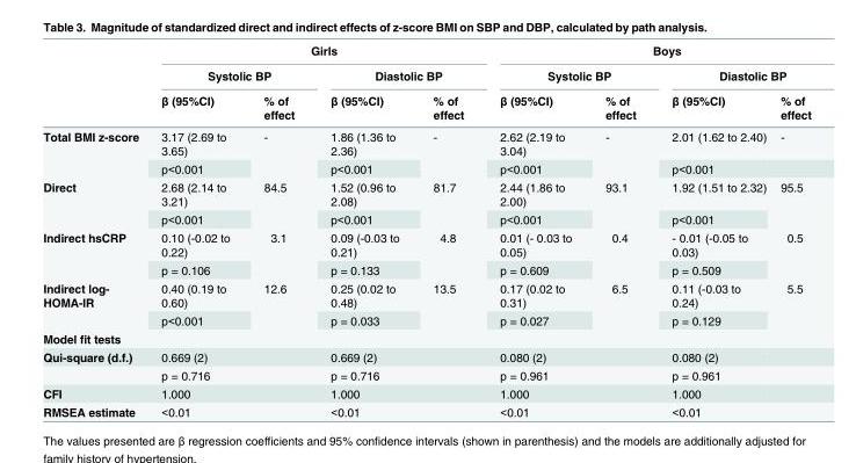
<table><thead><tr><td rowspan="3"></td><td colspan="4">Girls</td><td colspan="4">Boys</td></tr><tr><td colspan="2">Systolic BP</td><td colspan="2">Diastolic BP</td><td colspan="2">Systolic BP</td><td colspan="2">Diastolic BP</td></tr><tr><td>β (95%CI)</td><td>% of effect</td><td>β (95%CI)</td><td>% of effect</td><td>β (95%CI)</td><td>% of effect</td><td>β (95%CI)</td><td>% of effect</td></tr></thead><tbody><tr><td rowspan="2">Total BMI z-score</td><td>3.17 (2.69 to 3.65)</td><td rowspan="2">-</td><td>1.86 (1.36 to 2.36)</td><td rowspan="2">-</td><td>2.62 (2.19 to 3.04)</td><td rowspan="2">-</td><td>2.01 (1.62 to 2.40)</td><td>-</td></tr><tr><td>p&lt;0.001</td><td>p&lt;0.001</td><td>p&lt;0.001</td><td>p&lt;0.001</td><td></td></tr><tr><td rowspan="2">Direct</td><td>2.68 (2.14 to 3.21)</td><td rowspan="2">84.5</td><td>1.52 (0.96 to 2.08)</td><td rowspan="2">81.7</td><td>2.44 (1.86 to 2.00)</td><td rowspan="2">93.1</td><td>1.92 (1.51 to 2.32)</td><td rowspan="2">95.5</td></tr><tr><td>p&lt;0.001</td><td>p&lt;0.001</td><td>p&lt;0.001</td><td>p&lt;0.001</td></tr><tr><td rowspan="2">Indirect hsCRP</td><td>0.10 (-0.02 to 0.22)</td><td rowspan="2">3.1</td><td>0.09 (-0.03 to 0.21)</td><td rowspan="2">4.8</td><td>0.01 (- 0.03 to 0.05)</td><td rowspan="2">0.4</td><td>- 0.01 (-0.05 to 0.03)</td><td rowspan="2">0.5</td></tr><tr><td>p = 0.106</td><td>p = 0.133</td><td>p = 0.609</td><td>p = 0.509</td></tr><tr><td rowspan="2">Indirect log- HOMA-IR</td><td>0.40 (0.19 to 0.60)</td><td rowspan="2">12.6</td><td>0.25 (0.02 to 0.48)</td><td rowspan="2">13.5</td><td>0.17 (0.02 to 0.31)</td><td rowspan="2">6.5</td><td>0.11 (-0.03 to 0.24)</td><td rowspan="2">5.5</td></tr><tr><td>p&lt;0.001</td><td>p = 0.033</td><td>p = 0.027</td><td>p = 0.129</td></tr><tr><td colspan="9">Model fit tests</td></tr><tr><td rowspan="2">Qui-square (d.f.)</td><td>0.669 (2)</td><td></td><td>0.669 (2)</td><td></td><td>0.080 (2)</td><td></td><td>0.080 (2)</td><td></td></tr><tr><td>p = 0.716</td><td></td><td>p = 0.716</td><td></td><td>p = 0.961</td><td></td><td>p = 0.961</td><td></td></tr><tr><td>CFI</td><td>1.000</td><td></td><td>1.000</td><td></td><td>1.000</td><td></td><td>1.000</td><td></td></tr><tr><td>RMSEA estimate</td><td>&lt;0.01</td><td></td><td>&lt;0.01</td><td></td><td>&lt;0.01</td><td></td><td>&lt;0.01</td><td></td></tr></tbody></table>